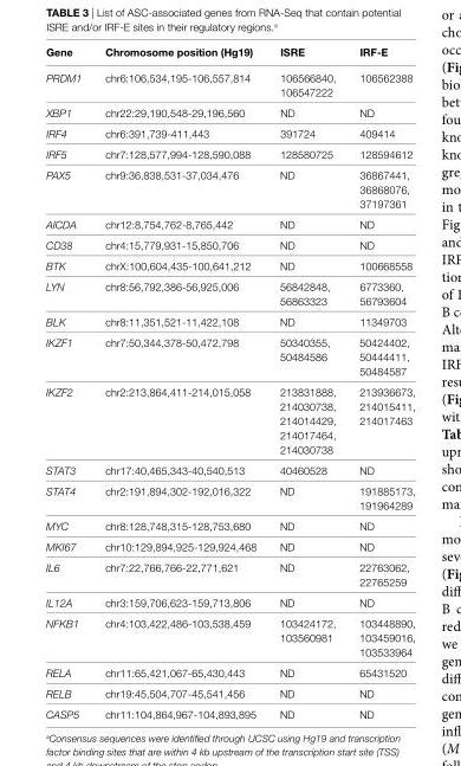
<table><thead><tr><td>gene</td><td>chromosome position (hg19)</td><td>isre</td><td>irF-e</td></tr></thead><tbody><tr><td>PRDM1</td><td>chr6:106,534,195-106,557,814</td><td>106566840, 106547222</td><td>106562388</td></tr><tr><td>XBP1</td><td>chr22:29,190,548-29,196,560</td><td>ND</td><td>ND</td></tr><tr><td>IRF4</td><td>chr6:391,739-411,443</td><td>391724</td><td>409414</td></tr><tr><td>IRF5</td><td>chr7:128,577,994-128,590,088</td><td>128580725</td><td>128594612</td></tr><tr><td>PAX5</td><td>chr9:36,838,531-37,034,476</td><td>ND</td><td>36867441, 36868076, 37197361</td></tr><tr><td>AICDA</td><td>chr12:8,754,762-8,765,442</td><td>ND</td><td>ND</td></tr><tr><td>CD38</td><td>chr4:15,779,931-15,850,706</td><td>ND</td><td>ND</td></tr><tr><td>BTK</td><td>chrX:100,604,435-100,641,212</td><td>ND</td><td>100668558</td></tr><tr><td>LYN</td><td>chr8:56,792,386-56,925,006</td><td>56842848, 56863323</td><td>6773360, 56793604</td></tr><tr><td>BLK</td><td>chr8:11,351,521-11,422,108</td><td>ND</td><td>11349703</td></tr><tr><td>IKZF1</td><td>chr7:50,344,378-50,472,798</td><td>50340355, 50484586</td><td>50424402, 50444411, 50484587</td></tr><tr><td>IKZF2</td><td>chr2:213,864,411-214,015,058</td><td>213831888, 214030738, 214014429, 214017464, 214030738</td><td>213936673, 214015411, 214017463</td></tr><tr><td>STAT3</td><td>chr17:40,465,343-40,540,513</td><td>40460528</td><td>ND</td></tr><tr><td>STAT4</td><td>chr2:191,894,302-192,016,322</td><td>ND</td><td>191885173, 191964289</td></tr><tr><td>MYC</td><td>chr8:128,748,315-128,753,680</td><td>ND</td><td>ND</td></tr><tr><td>MKI67</td><td>chr10:129,894,925-129,924,468</td><td>ND</td><td>ND</td></tr><tr><td>IL6</td><td>chr7:22,766,766-22,771,621</td><td>ND</td><td>22763062, 22765259</td></tr><tr><td>IL12A</td><td>chr3:159,706,623-159,713,806</td><td>ND</td><td>ND</td></tr><tr><td>NFKB1</td><td>chr4:103,422,486-103,538,459</td><td>103424172, 103560981</td><td>103448890, 103459016, 103533964</td></tr><tr><td>RELA</td><td>chr11:65,421,067-65,430,443</td><td>ND</td><td>65431520</td></tr><tr><td>RELB</td><td>chr19:45,504,707-45,541,456</td><td>ND</td><td>ND</td></tr><tr><td>CASP5</td><td>chr11:104,864,967-104,893,895</td><td>ND</td><td>ND</td></tr></tbody></table>